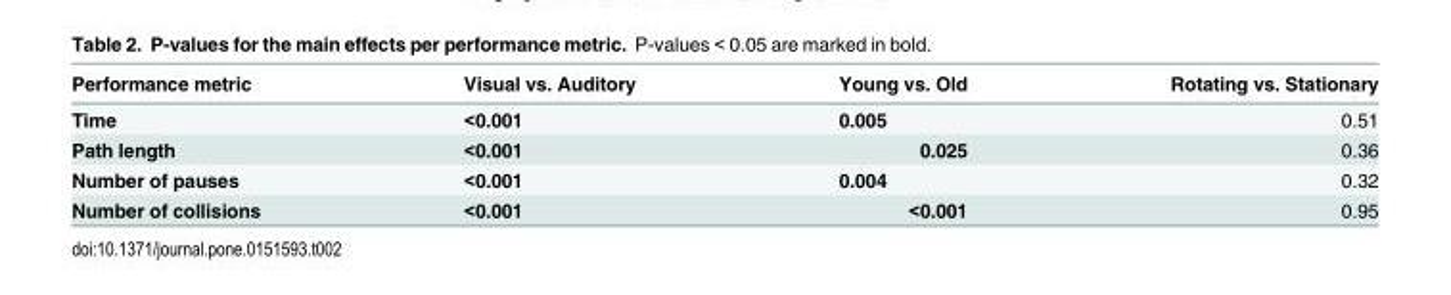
<table><thead><tr><td>Performance metric</td><td>Visual vs. Auditory</td><td>Young vs. Old</td><td>Rotating vs. Stationary</td></tr></thead><tbody><tr><td>Time</td><td>&lt;0.001</td><td>0.005</td><td>0.51</td></tr><tr><td>Path length</td><td>&lt;0.001</td><td>0.025</td><td>0.36</td></tr><tr><td>Number of pauses</td><td>&lt;0.001</td><td>0.004</td><td>0.32</td></tr><tr><td>Number of collisions</td><td>&lt;0.001</td><td>&lt;0.001</td><td>0.95</td></tr></tbody></table>